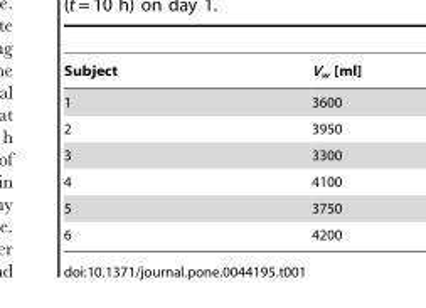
<table><thead><tr><td>Subject</td><td>V<sub>w</sub> [ml]</td></tr></thead><tbody><tr><td>1</td><td>3600</td></tr><tr><td>2</td><td>3950</td></tr><tr><td>3</td><td>3300</td></tr><tr><td>4</td><td>4100</td></tr><tr><td>5</td><td>3750</td></tr><tr><td>6</td><td>4200</td></tr></tbody></table>